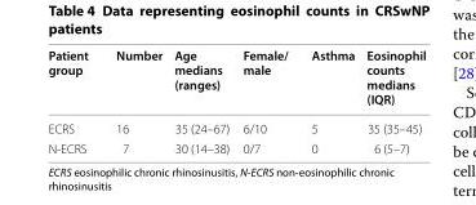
<table><thead><tr><td>Patient group</td><td>Number</td><td>Age medians (ranges)</td><td>Female/ male</td><td>Asthma</td><td>Eosinophil counts medians (IQR)</td></tr></thead><tbody><tr><td>ECRS</td><td>16</td><td>35 (24–67)</td><td>6/10</td><td>5</td><td>35 (35–45)</td></tr><tr><td>N-ECRS</td><td>7</td><td>30 (14–38)</td><td>0/7</td><td>0</td><td>6 (5–7)</td></tr></tbody></table>